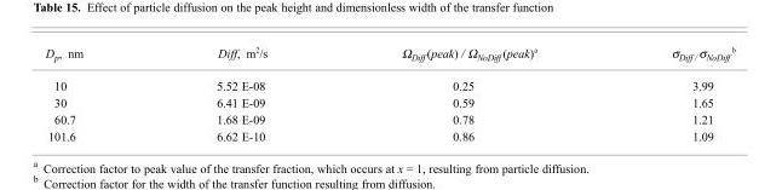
<table><thead><tr><td>D<sub>p</sub>, nm</td><td>Diff, m2/s</td><td>Ω<sub>Diff</sub>(peak) / Ω<sub>NoDiff</sub>(peak)<sup>a</sup></td><td>σ<sub>Diff</sub> /σ<sub>NoDiff</sub> <sup>b</sup></td></tr></thead><tbody><tr><td>10</td><td>5.52 E-08</td><td>0.25</td><td>3.99</td></tr><tr><td>30</td><td>6.41 E-09</td><td>0.59</td><td>1.65</td></tr><tr><td>60.7</td><td>1.68 E-09</td><td>0.78</td><td>1.21</td></tr><tr><td>101.6</td><td>6.62 E-10</td><td>0.86</td><td>1.09</td></tr></tbody></table>